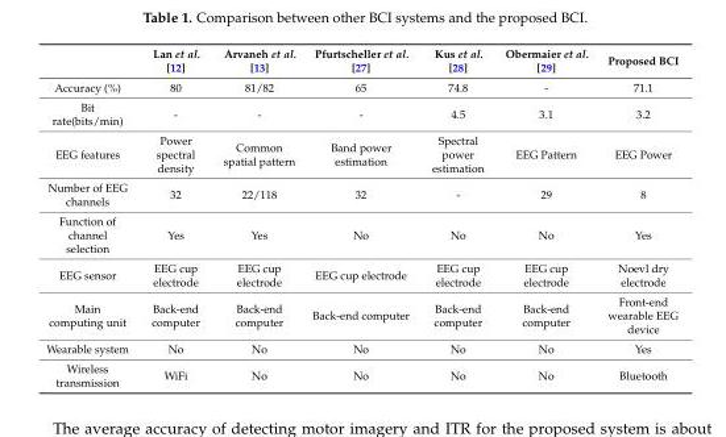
<table><thead><tr><td></td><td>Lan et al. [12]</td><td>Arvaneh et al. [13]</td><td>Pfurtscheller et al. [27]</td><td>Kus et al. [28]</td><td>Obermaier et al. [29]</td><td>Proposed BCI</td></tr></thead><tbody><tr><td>Accuracy (%)</td><td>80</td><td>81/82</td><td>65</td><td>74.8</td><td>-</td><td>71.1</td></tr><tr><td>Bit rate(bits/min)</td><td>-</td><td>-</td><td>-</td><td>4.5</td><td>3.1</td><td>3.2</td></tr><tr><td>EEG features</td><td>Power spectral density</td><td>Common spatial pattern</td><td>Band power estimation</td><td>Spectral power estimation</td><td>EEG Pattern</td><td>EEG Power</td></tr><tr><td>Number of EEG channels</td><td>32</td><td>22/118</td><td>32</td><td>-</td><td>29</td><td>8</td></tr><tr><td>Function of channel selection</td><td>Yes</td><td>Yes</td><td>No</td><td>No</td><td>No</td><td>Yes</td></tr><tr><td>EEG sensor</td><td>EEG cup electrode</td><td>EEG cup electrode</td><td>EEG cup electrode</td><td>EEG cup electrode</td><td>EEG cup electrode</td><td>Noevl dry electrode</td></tr><tr><td>Main computing unit</td><td>Back-end computer</td><td>Back-end computer</td><td>Back-end computer</td><td>Back-end computer</td><td>Back-end computer</td><td>Front-end wearable EEG device</td></tr><tr><td>Wearable system</td><td>No</td><td>No</td><td>No</td><td>No</td><td>No</td><td>Yes</td></tr><tr><td>Wireless transmission</td><td>WiFi</td><td>No</td><td>No</td><td>No</td><td>No</td><td>Bluetooth</td></tr></tbody></table>